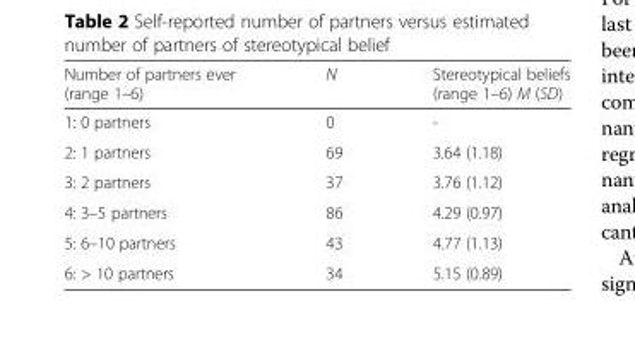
<table><thead><tr><td>Number of partners ever (range 1–6)</td><td>N</td><td>Stereotypical beliefs (range 1–6) M (SD)</td></tr></thead><tbody><tr><td>1: 0 partners</td><td>0</td><td>-</td></tr><tr><td>2: 1 partners</td><td>69</td><td>3.64 (1.18)</td></tr><tr><td>3: 2 partners</td><td>37</td><td>3.76 (1.12)</td></tr><tr><td>4: 3–5 partners</td><td>86</td><td>4.29 (0.97)</td></tr><tr><td>5: 6–10 partners</td><td>43</td><td>4.77 (1.13)</td></tr><tr><td>6: &gt; 10 partners</td><td>34</td><td>5.15 (0.89)</td></tr></tbody></table>